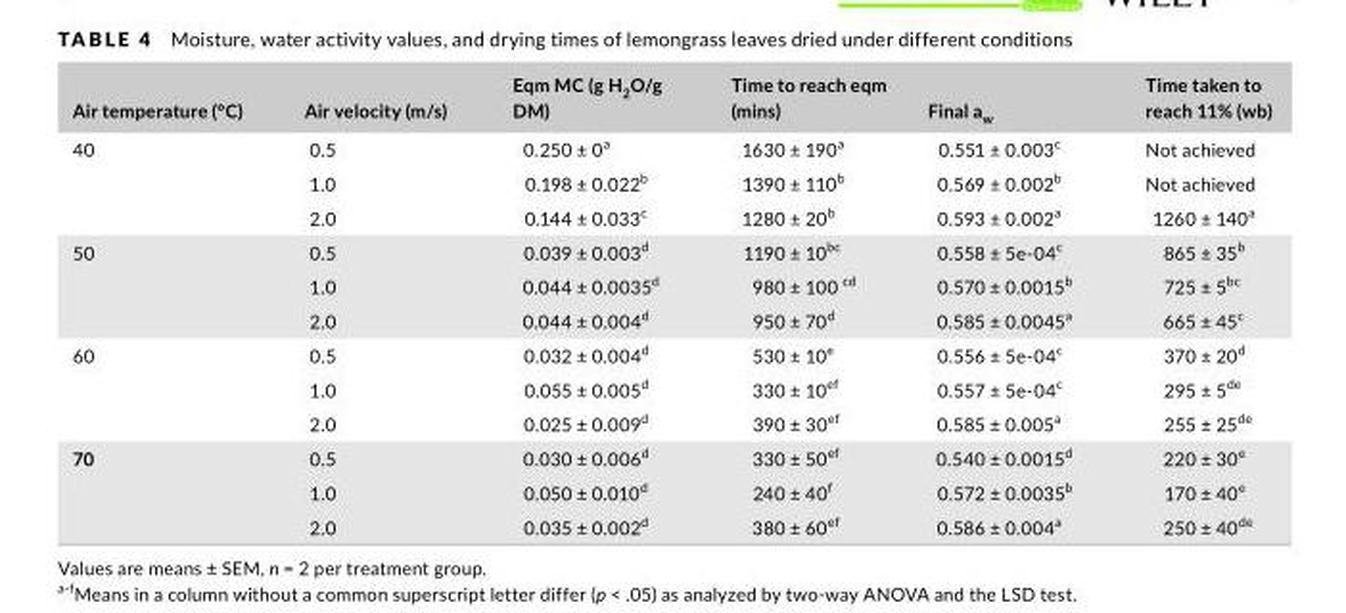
<table><thead><tr><td>Airtemperature(°C)</td><td>Airvelocity(m/s)</td><td>EqmMC(gH<sub>2</sub>O/g DM)</td><td>Timetoreacheqm (mins)</td><td>Finala<sub>w</sub></td><td>Timetakento reach11%(wb)</td></tr></thead><tbody><tr><td rowspan="3">40</td><td>0.5</td><td>0.250 ± 0<sup>a</sup></td><td>1630 ± 190<sup>a</sup></td><td>0.551 ± 0.003<sup>c</sup></td><td>Not achieved</td></tr><tr><td>1.0</td><td>0.198 ± 0.022<sup>b</sup></td><td>1390 ± 110<sup>b</sup></td><td>0.569 ± 0.002<sup>b</sup></td><td>Not achieved</td></tr><tr><td>2.0</td><td>0.144 ± 0.033<sup>c</sup></td><td>1280 ± 20<sup>b</sup></td><td>0.593 ± 0.002<sup>a</sup></td><td>1260 ± 140<sup>a</sup></td></tr><tr><td rowspan="3">50</td><td>0.5</td><td>0.039 ± 0.003<sup>d</sup></td><td>1190 ± 10<sup>bc</sup></td><td>0.558 ± 5e- 04<sup>c</sup></td><td>865 ± 35<sup>b</sup></td></tr><tr><td>1.0</td><td>0.044 ± 0.0035<sup>d</sup></td><td>980 ± 100 <sup>cd</sup></td><td>0.570 ± 0.0015<sup>b</sup></td><td>725 ± 5<sup>bc</sup></td></tr><tr><td>2.0</td><td>0.044 ± 0.004<sup>d</sup></td><td>950 ± 70<sup>d</sup></td><td>0.585 ± 0.0045<sup>a</sup></td><td>665 ± 45<sup>c</sup></td></tr><tr><td rowspan="3">60</td><td>0.5</td><td>0.032 ± 0.004<sup>d</sup></td><td>530 ± 10<sup>e</sup></td><td>0.556 ± 5e- 04<sup>c</sup></td><td>370 ± 20<sup>d</sup></td></tr><tr><td>1.0</td><td>0.055 ± 0.005<sup>d</sup></td><td>330 ± 10<sup>ef</sup></td><td>0.557 ± 5e- 04<sup>c</sup></td><td>295 ± 5<sup>de</sup></td></tr><tr><td>2.0</td><td>0.025 ± 0.009<sup>d</sup></td><td>390 ± 30<sup>ef</sup></td><td>0.585 ± 0.005<sup>a</sup></td><td>255 ± 25<sup>de</sup></td></tr><tr><td rowspan="3">70</td><td>0.5</td><td>0.030 ± 0.006<sup>d</sup></td><td>330 ± 50<sup>ef</sup></td><td>0.540 ± 0.0015<sup>d</sup></td><td>220 ± 30<sup>e</sup></td></tr><tr><td>1.0</td><td>0.050 ± 0.010<sup>d</sup></td><td>240 ± 40<sup>f</sup></td><td>0.572 ± 0.0035<sup>b</sup></td><td>170 ± 40<sup>e</sup></td></tr><tr><td>2.0</td><td>0.035 ± 0.002<sup>d</sup></td><td>380 ± 60<sup>ef</sup></td><td>0.586 ± 0.004<sup>a</sup></td><td>250 ± 40<sup>de</sup></td></tr></tbody></table>